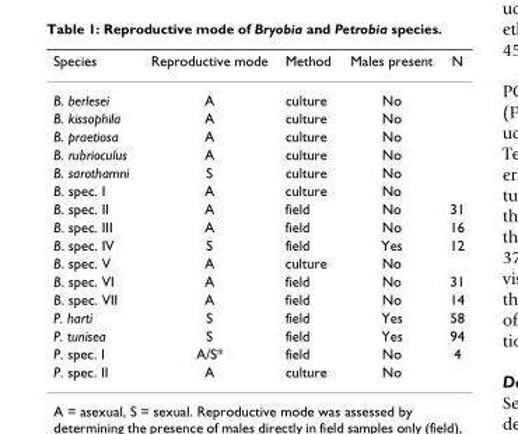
<table><thead><tr><td>Species</td><td>Reproductive mode</td><td>Method</td><td>Males present</td><td>N</td></tr></thead><tbody><tr><td>B. berlesei</td><td>A</td><td>culture</td><td>No</td><td></td></tr><tr><td>B. kissophila</td><td>A</td><td>culture</td><td>No</td><td></td></tr><tr><td>B. praetiosa</td><td>A</td><td>culture</td><td>No</td><td></td></tr><tr><td>B. rubrioculus</td><td>A</td><td>culture</td><td>No</td><td></td></tr><tr><td>B. sarothamni</td><td>S</td><td>culture</td><td>No</td><td></td></tr><tr><td>B. spec. I</td><td>A</td><td>culture</td><td>No</td><td></td></tr><tr><td>B. spec. II</td><td>A</td><td>field</td><td>No</td><td>31</td></tr><tr><td>B. spec. III</td><td>A</td><td>field</td><td>No</td><td>16</td></tr><tr><td>B. spec. IV</td><td>S</td><td>field</td><td>Yes</td><td>12</td></tr><tr><td>B. spec. V</td><td>A</td><td>culture</td><td>No</td><td></td></tr><tr><td>B. spec. VI</td><td>A</td><td>field</td><td>No</td><td>31</td></tr><tr><td>B. spec. VII</td><td>A</td><td>field</td><td>No</td><td>14</td></tr><tr><td>P. harti</td><td>S</td><td>field</td><td>Yes</td><td>58</td></tr><tr><td>P. tunisea</td><td>S</td><td>field</td><td>Yes</td><td>94</td></tr><tr><td>P. spec. I</td><td>A/S*</td><td>field</td><td>No</td><td>4</td></tr><tr><td>P. spec. II</td><td>A</td><td>culture</td><td>No</td><td></td></tr></tbody></table>